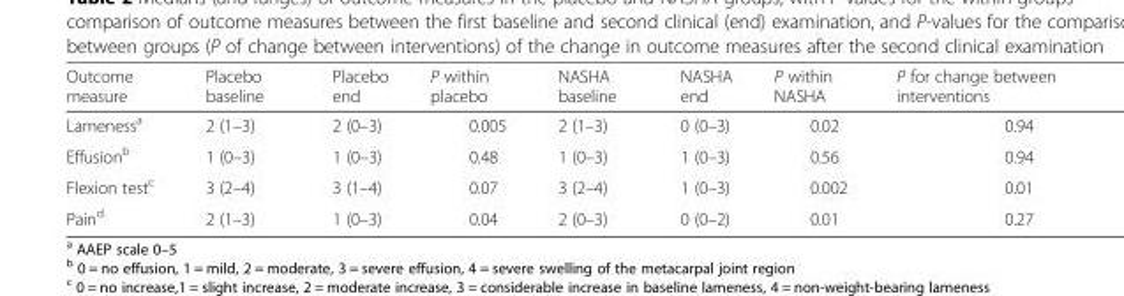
<table><thead><tr><td>Outcome measure</td><td>Placebo baseline</td><td>Placebo end</td><td>P within placebo</td><td>NASHA baseline</td><td>NASHA end</td><td>P within NASHA</td><td>P for change between interventions</td></tr></thead><tbody><tr><td>Lameness<sup>a</sup></td><td>2 (1–3)</td><td>2 (0–3)</td><td>0.005</td><td>2 (1–3)</td><td>0 (0–3)</td><td>0.02</td><td>0.94</td></tr><tr><td>Effusion<sup>b</sup></td><td>1 (0–3)</td><td>1 (0–3)</td><td>0.48</td><td>1 (0–3)</td><td>1 (0–3)</td><td>0.56</td><td>0.94</td></tr><tr><td>Flexion test<sup>c</sup></td><td>3 (2–4)</td><td>3 (1–4)</td><td>0.07</td><td>3 (2–4)</td><td>1 (0–3)</td><td>0.002</td><td>0.01</td></tr><tr><td>Pain<sup>d</sup></td><td>2 (1–3)</td><td>1 (0–3)</td><td>0.04</td><td>2 (0–3)</td><td>0 (0–2)</td><td>0.01</td><td>0.27</td></tr></tbody></table>